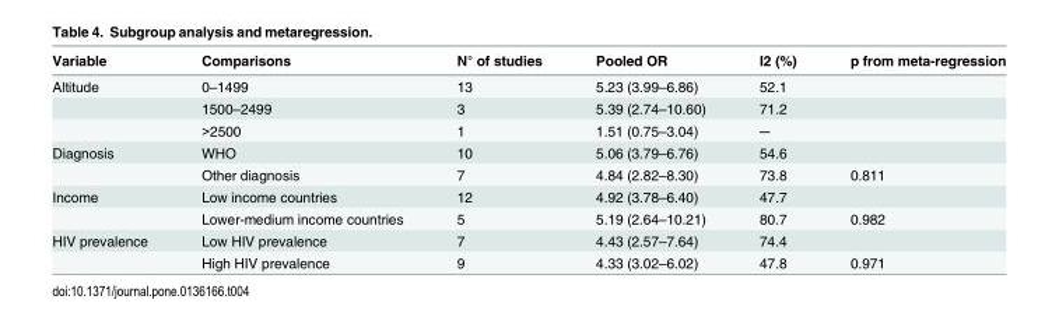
<table><thead><tr><td>Variable</td><td>Comparisons</td><td>N° of studies</td><td>Pooled OR</td><td>I2 (%)</td><td>p from meta-regression</td></tr></thead><tbody><tr><td rowspan="3">Altitude</td><td>0–1499</td><td>13</td><td>5.23 (3.99–6.86)</td><td>52.1</td><td></td></tr><tr><td>1500–2499</td><td>3</td><td>5.39 (2.74–10.60)</td><td>71.2</td><td></td></tr><tr><td>&gt;2500</td><td>1</td><td>1.51 (0.75–3.04)</td><td>─</td><td></td></tr><tr><td rowspan="2">Diagnosis</td><td>WHO</td><td>10</td><td>5.06 (3.79–6.76)</td><td>54.6</td><td></td></tr><tr><td>Other diagnosis</td><td>7</td><td>4.84 (2.82–8.30)</td><td>73.8</td><td>0.811</td></tr><tr><td rowspan="2">Income</td><td>Low income countries</td><td>12</td><td>4.92 (3.78–6.40)</td><td>47.7</td><td></td></tr><tr><td>Lower-medium income countries</td><td>5</td><td>5.19 (2.64–10.21)</td><td>80.7</td><td>0.982</td></tr><tr><td rowspan="2">HIV prevalence</td><td>Low HIV prevalence</td><td>7</td><td>4.43 (2.57–7.64)</td><td>74.4</td><td></td></tr><tr><td>High HIV prevalence</td><td>9</td><td>4.33 (3.02–6.02)</td><td>47.8</td><td>0.971</td></tr></tbody></table>